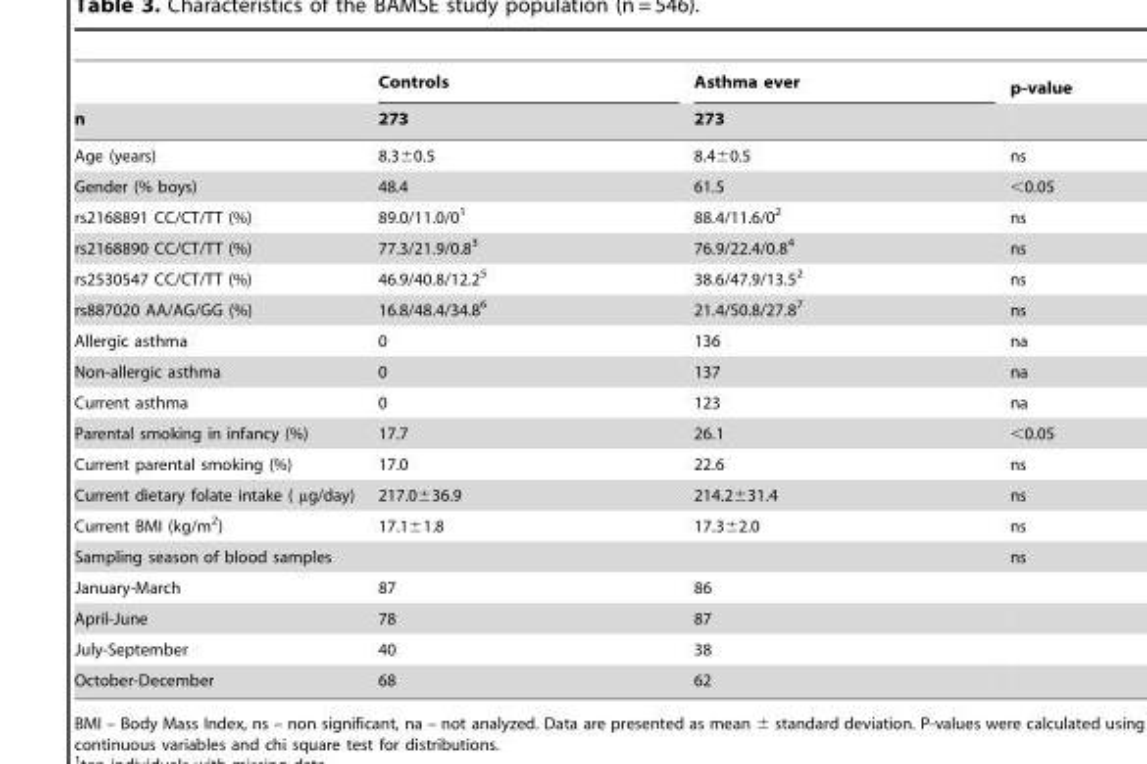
<table><thead><tr><td rowspan="2">n</td><td rowspan="2">Controls 273</td><td rowspan="2">Asthma ever 273</td><td rowspan="2">p-value</td></tr><tr></tr></thead><tbody><tr><td>Age (years)</td><td>8.3±0.5</td><td>8.4±0.5</td><td>ns</td></tr><tr><td>Gender (% boys)</td><td>48.4</td><td>61.5</td><td>&lt;0.05</td></tr><tr><td>rs2168891 CC/CT/TT (%)</td><td>89.0/11.0/0<sup>1</sup></td><td>88.4/11.6/0<sup>2</sup></td><td>ns</td></tr><tr><td>rs2168890 CC/CT/TT (%)</td><td>77.3/21.9/0.8<sup>3</sup></td><td>76.9/22.4/0.8<sup>4</sup></td><td>ns</td></tr><tr><td>rs2530547 CC/CT/TT (%)</td><td>46.9/40.8/12.2<sup>5</sup></td><td>38.6/47.9/13.5<sup>2</sup></td><td>ns</td></tr><tr><td>rs887020 AA/AG/GG (%)</td><td>16.8/48.4/34.8<sup>6</sup></td><td>21.4/50.8/27.8<sup>7</sup></td><td>ns</td></tr><tr><td>Allergic asthma</td><td>0</td><td>136</td><td>na</td></tr><tr><td>Non-allergic asthma</td><td>0</td><td>137</td><td>na</td></tr><tr><td>Current asthma</td><td>0</td><td>123</td><td>na</td></tr><tr><td>Parental smoking in infancy (%)</td><td>17.7</td><td>26.1</td><td>&lt;0.05</td></tr><tr><td>Current parental smoking (%)</td><td>17.0</td><td>22.6</td><td>ns</td></tr><tr><td>Current dietary folate intake ( µg/day)</td><td>217.0±36.9</td><td>214.2±31.4</td><td>ns</td></tr><tr><td>Current BMI (kg/m<sup>2</sup>)</td><td>17.1±1.8</td><td>17.3±2.0</td><td>ns</td></tr><tr><td>Sampling season of blood samples</td><td></td><td></td><td>ns</td></tr><tr><td>January-March</td><td>87</td><td>86</td><td></td></tr><tr><td>April-June</td><td>78</td><td>87</td><td></td></tr><tr><td>July-September</td><td>40</td><td>38</td><td></td></tr><tr><td>October-December</td><td>68</td><td>62</td><td></td></tr></tbody></table>